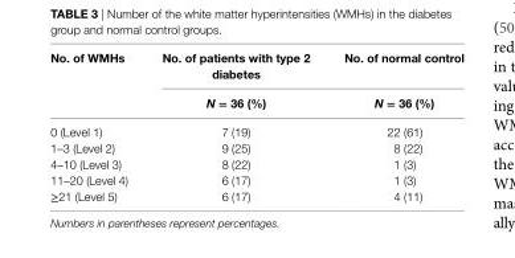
<table><thead><tr><td rowspan="2">no. of WMhs</td><td rowspan="2">no. of patients with type 2 diabetes N = 36 (%)</td><td rowspan="2">no. of normal control N = 36 (%)</td></tr><tr></tr></thead><tbody><tr><td>0 (Level 1)</td><td>7 (19)</td><td>22 (61)</td></tr><tr><td>1–3 (Level 2)</td><td>9 (25)</td><td>8 (22)</td></tr><tr><td>4–10 (Level 3)</td><td>8 (22)</td><td>1 (3)</td></tr><tr><td>11–20 (Level 4)</td><td>6 (17)</td><td>1 (3)</td></tr><tr><td>≥21 (Level 5)</td><td>6 (17)</td><td>4 (11)</td></tr></tbody></table>